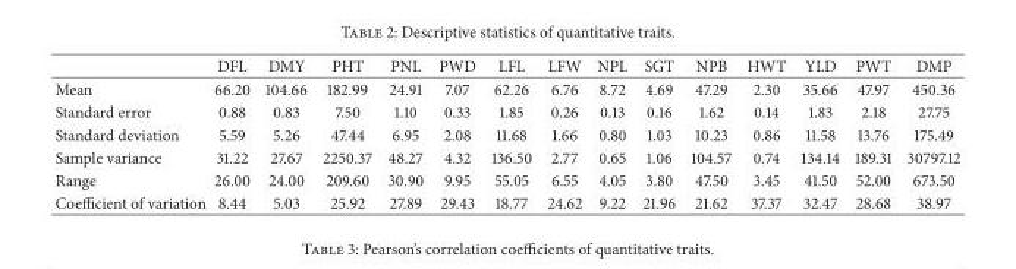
<table><thead><tr><td></td><td>DFL</td><td>DMY</td><td>PHT</td><td>PNL</td><td>PWD</td><td>LFL</td><td>LFW</td><td>NPL</td><td>SGT</td><td>NPB</td><td>HWT</td><td>YLD</td><td>PWT</td><td>DMP</td></tr></thead><tbody><tr><td>Mean</td><td>66.20</td><td>104.66</td><td>182.99</td><td>24.91</td><td>7.07</td><td>62.26</td><td>6.76</td><td>8.72</td><td>4.69</td><td>47.29</td><td>2.30</td><td>35.66</td><td>47.97</td><td>450.36</td></tr><tr><td>Standard error</td><td>0.88</td><td>0.83</td><td>7.50</td><td>1.10</td><td>0.33</td><td>1.85</td><td>0.26</td><td>0.13</td><td>0.16</td><td>1.62</td><td>0.14</td><td>1.83</td><td>2.18</td><td>27.75</td></tr><tr><td>Standard deviation</td><td>5.59</td><td>5.26</td><td>47.44</td><td>6.95</td><td>2.08</td><td>11.68</td><td>1.66</td><td>0.80</td><td>1.03</td><td>10.23</td><td>0.86</td><td>11.58</td><td>13.76</td><td>175.49</td></tr><tr><td>Sample variance</td><td>31.22</td><td>27.67</td><td>2250.37</td><td>48.27</td><td>4.32</td><td>136.50</td><td>2.77</td><td>0.65</td><td>1.06</td><td>104.57</td><td>0.74</td><td>134.14</td><td>189.31</td><td>30797.12</td></tr><tr><td>Range</td><td>26.00</td><td>24.00</td><td>209.60</td><td>30.90</td><td>9.95</td><td>55.05</td><td>6.55</td><td>4.05</td><td>3.80</td><td>47.50</td><td>3.45</td><td>41.50</td><td>52.00</td><td>673.50</td></tr><tr><td>Coefficient of variation</td><td>8.44</td><td>5.03</td><td>25.92</td><td>27.89</td><td>29.43</td><td>18.77</td><td>24.62</td><td>9.22</td><td>21.96</td><td>21.62</td><td>37.37</td><td>32.47</td><td>28.68</td><td>38.97</td></tr></tbody></table>